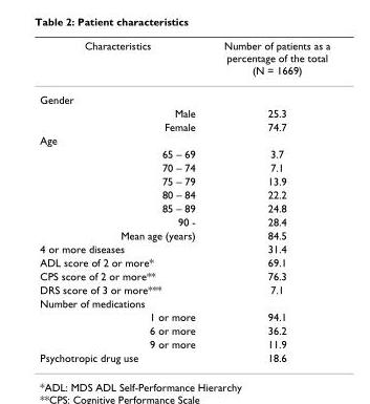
<table><thead><tr><td>Characteristics</td><td>Number of patients as a percentage of the total (N = 1669)</td></tr></thead><tbody><tr><td colspan="2">Gender</td></tr><tr><td>Male</td><td>25.3</td></tr><tr><td>Female</td><td>74.7</td></tr><tr><td colspan="2">Age</td></tr><tr><td>65 – 69</td><td>3.7</td></tr><tr><td>70 – 74</td><td>7.1</td></tr><tr><td>75 – 79</td><td>13.9</td></tr><tr><td>80 – 84</td><td>22.2</td></tr><tr><td>85 – 89</td><td>24.8</td></tr><tr><td>90 -</td><td>28.4</td></tr><tr><td>Mean age (years)</td><td>84.5</td></tr><tr><td>4 or more diseases</td><td>31.4</td></tr><tr><td>ADL score of 2 or more*</td><td>69.1</td></tr><tr><td>CPS score of 2 or more**</td><td>76.3</td></tr><tr><td>DRS score of 3 or more***</td><td>7.1</td></tr><tr><td colspan="2">Number of medications</td></tr><tr><td>1 or more</td><td>94.1</td></tr><tr><td>6 or more</td><td>36.2</td></tr><tr><td>9 or more</td><td>11.9</td></tr><tr><td>Psychotropic drug use</td><td>18.6</td></tr></tbody></table>